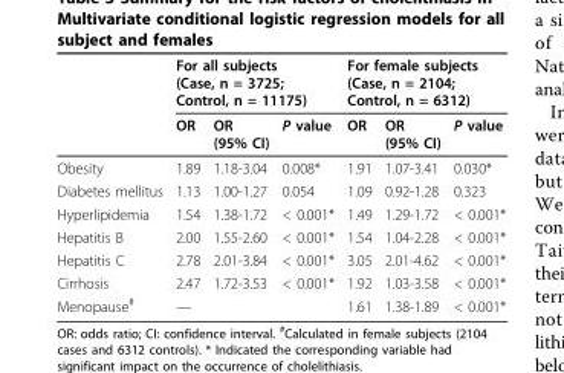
<table><thead><tr><td rowspan="2"></td><td colspan="3">For all subjects (Case, n = 3725; Control, n = 11175)</td><td colspan="3">For female subjects (Case, n = 2104; Control, n = 6312)</td></tr><tr><td>OR</td><td>OR (95% CI)</td><td>P value</td><td>OR</td><td>OR (95% CI)</td><td>P value</td></tr></thead><tbody><tr><td>Obesity</td><td>1.89</td><td>1.18-3.04</td><td>0.008*</td><td>1.91</td><td>1.07-3.41</td><td>0.030*</td></tr><tr><td>Diabetes mellitus</td><td>1.13</td><td>1.00-1.27</td><td>0.054</td><td>1.09</td><td>0.92-1.28</td><td>0.323</td></tr><tr><td>Hyperlipidemia</td><td>1.54</td><td>1.38-1.72</td><td>&lt; 0.001*</td><td>1.49</td><td>1.29-1.72</td><td>&lt; 0.001*</td></tr><tr><td>Hepatitis B</td><td>2.00</td><td>1.55-2.60</td><td>&lt; 0.001*</td><td>1.54</td><td>1.04-2.28</td><td>&lt; 0.001*</td></tr><tr><td>Hepatitis C</td><td>2.78</td><td>2.01-3.84</td><td>&lt; 0.001*</td><td>3.05</td><td>2.01-4.62</td><td>&lt; 0.001*</td></tr><tr><td>Cirrhosis</td><td>2.47</td><td>1.72-3.53</td><td>&lt; 0.001*</td><td>1.92</td><td>1.03-3.58</td><td>&lt; 0.001*</td></tr><tr><td>Menopause<sup>#</sup></td><td>—</td><td></td><td></td><td>1.61</td><td>1.38-1.89</td><td>&lt; 0.001*</td></tr></tbody></table>